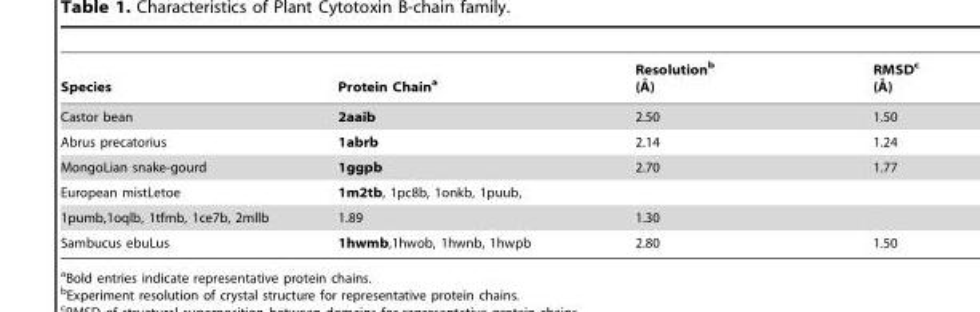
<table><thead><tr><td>Species</td><td>Protein Chain<sup>a</sup></td><td>Resolutionb (A˚ )</td><td>RMSDc (A˚ )</td></tr></thead><tbody><tr><td>Castor bean</td><td>2aaib</td><td>2.50</td><td>1.50</td></tr><tr><td>Abrus precatorius</td><td>1abrb</td><td>2.14</td><td>1.24</td></tr><tr><td>MongoLian snake-gourd</td><td>1ggpb</td><td>2.70</td><td>1.77</td></tr><tr><td>European mistLetoe</td><td>1m2tb, 1pc8b, 1onkb, 1puub,</td><td></td><td></td></tr><tr><td>1pumb,1oqlb, 1tfmb, 1ce7b, 2mllb</td><td>1.89</td><td>1.30</td><td></td></tr><tr><td>Sambucus ebuLus</td><td>1hwmb,1hwob, 1hwnb, 1hwpb</td><td>2.80</td><td>1.50</td></tr></tbody></table>